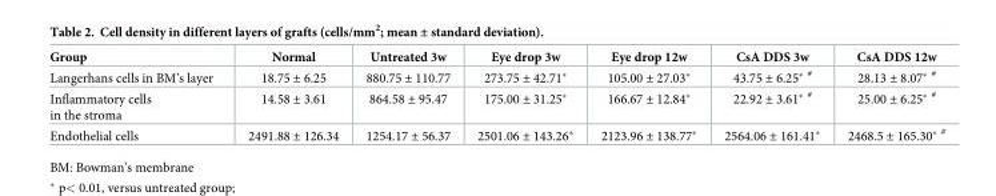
<table><thead><tr><td>Group</td><td>Normal</td><td>Untreated 3w</td><td>Eye drop 3w</td><td>Eye drop 12w</td><td>CsA DDS 3w</td><td>CsA DDS 12w</td></tr></thead><tbody><tr><td>Langerhans cells in BM’s layer</td><td>18.75 ± 6.25</td><td>880.75 ± 110.77</td><td>273.75 ± 42.71*</td><td>105.00 ± 27.03*</td><td>43.75 ± 6.25* <sup>#</sup></td><td>28.13 ± 8.07* <sup>#</sup></td></tr><tr><td>Inflammatory cells in the stroma</td><td>14.58 ± 3.61</td><td>864.58 ± 95.47</td><td>175.00 ± 31.25*</td><td>166.67 ± 12.84*</td><td>22.92 ± 3.61* <sup>#</sup></td><td>25.00 ± 6.25* <sup>#</sup></td></tr><tr><td>Endothelial cells</td><td>2491.88 ± 126.34</td><td>1254.17 ± 56.37</td><td>2501.06 ± 143.26*</td><td>2123.96 ± 138.77*</td><td>2564.06 ± 161.41*</td><td>2468.5 ± 165.30* <sup>#</sup></td></tr></tbody></table>